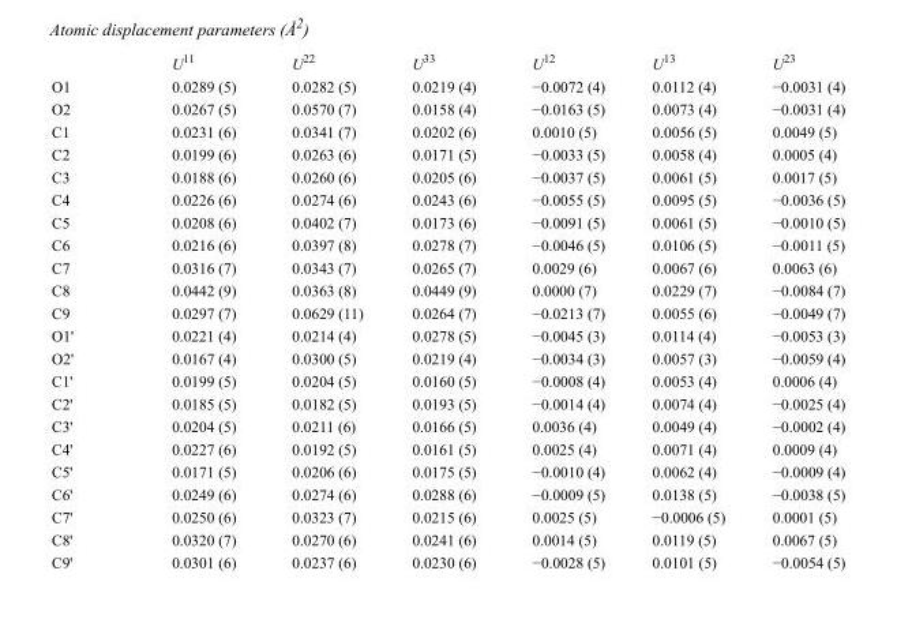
<table><thead><tr><td></td><td>U<sup>11</sup></td><td>U<sup>22</sup></td><td>U<sup>33</sup></td><td>U<sup>12</sup></td><td>U<sup>13</sup></td><td>U<sup>23</sup></td></tr></thead><tbody><tr><td>O1</td><td>0.0289 (5)</td><td>0.0282 (5)</td><td>0.0219 (4)</td><td>−0.0072 (4)</td><td>0.0112 (4)</td><td>−0.0031 (4)</td></tr><tr><td>O2</td><td>0.0267 (5)</td><td>0.0570 (7)</td><td>0.0158 (4)</td><td>−0.0163 (5)</td><td>0.0073 (4)</td><td>−0.0031 (4)</td></tr><tr><td>C1</td><td>0.0231 (6)</td><td>0.0341 (7)</td><td>0.0202 (6)</td><td>0.0010 (5)</td><td>0.0056 (5)</td><td>0.0049 (5)</td></tr><tr><td>C2</td><td>0.0199 (6)</td><td>0.0263 (6)</td><td>0.0171 (5)</td><td>−0.0033 (5)</td><td>0.0058 (4)</td><td>0.0005 (4)</td></tr><tr><td>C3</td><td>0.0188 (6)</td><td>0.0260 (6)</td><td>0.0205 (6)</td><td>−0.0037 (5)</td><td>0.0061 (5)</td><td>0.0017 (5)</td></tr><tr><td>C4</td><td>0.0226 (6)</td><td>0.0274 (6)</td><td>0.0243 (6)</td><td>−0.0055 (5)</td><td>0.0095 (5)</td><td>−0.0036 (5)</td></tr><tr><td>C5</td><td>0.0208 (6)</td><td>0.0402 (7)</td><td>0.0173 (6)</td><td>−0.0091 (5)</td><td>0.0061 (5)</td><td>−0.0010 (5)</td></tr><tr><td>C6</td><td>0.0216 (6)</td><td>0.0397 (8)</td><td>0.0278 (7)</td><td>−0.0046 (5)</td><td>0.0106 (5)</td><td>−0.0011 (5)</td></tr><tr><td>C7</td><td>0.0316 (7)</td><td>0.0343 (7)</td><td>0.0265 (7)</td><td>0.0029 (6)</td><td>0.0067 (6)</td><td>0.0063 (6)</td></tr><tr><td>C8</td><td>0.0442 (9)</td><td>0.0363 (8)</td><td>0.0449 (9)</td><td>0.0000 (7)</td><td>0.0229 (7)</td><td>−0.0084 (7)</td></tr><tr><td>C9</td><td>0.0297 (7)</td><td>0.0629 (11)</td><td>0.0264 (7)</td><td>−0.0213 (7)</td><td>0.0055 (6)</td><td>−0.0049 (7)</td></tr><tr><td>O1&#x27;</td><td>0.0221 (4)</td><td>0.0214 (4)</td><td>0.0278 (5)</td><td>−0.0045 (3)</td><td>0.0114 (4)</td><td>−0.0053 (3)</td></tr><tr><td>O2&#x27;</td><td>0.0167 (4)</td><td>0.0300 (5)</td><td>0.0219 (4)</td><td>−0.0034 (3)</td><td>0.0057 (3)</td><td>−0.0059 (4)</td></tr><tr><td>C1&#x27;</td><td>0.0199 (5)</td><td>0.0204 (5)</td><td>0.0160 (5)</td><td>−0.0008 (4)</td><td>0.0053 (4)</td><td>0.0006 (4)</td></tr><tr><td>C2&#x27;</td><td>0.0185 (5)</td><td>0.0182 (5)</td><td>0.0193 (5)</td><td>−0.0014 (4)</td><td>0.0074 (4)</td><td>−0.0025 (4)</td></tr><tr><td>C3&#x27;</td><td>0.0204 (5)</td><td>0.0211 (6)</td><td>0.0166 (5)</td><td>0.0036 (4)</td><td>0.0049 (4)</td><td>−0.0002 (4)</td></tr><tr><td>C4&#x27;</td><td>0.0227 (6)</td><td>0.0192 (5)</td><td>0.0161 (5)</td><td>0.0025 (4)</td><td>0.0071 (4)</td><td>0.0009 (4)</td></tr><tr><td>C5&#x27;</td><td>0.0171 (5)</td><td>0.0206 (6)</td><td>0.0175 (5)</td><td>−0.0010 (4)</td><td>0.0062 (4)</td><td>−0.0009 (4)</td></tr><tr><td>C6&#x27;</td><td>0.0249 (6)</td><td>0.0274 (6)</td><td>0.0288 (6)</td><td>−0.0009 (5)</td><td>0.0138 (5)</td><td>−0.0038 (5)</td></tr><tr><td>C7&#x27;</td><td>0.0250 (6)</td><td>0.0323 (7)</td><td>0.0215 (6)</td><td>0.0025 (5)</td><td>−0.0006 (5)</td><td>0.0001 (5)</td></tr><tr><td>C8&#x27;</td><td>0.0320 (7)</td><td>0.0270 (6)</td><td>0.0241 (6)</td><td>0.0014 (5)</td><td>0.0119 (5)</td><td>0.0067 (5)</td></tr><tr><td>C9&#x27;</td><td>0.0301 (6)</td><td>0.0237 (6)</td><td>0.0230 (6)</td><td>−0.0028 (5)</td><td>0.0101 (5)</td><td>−0.0054 (5)</td></tr></tbody></table>